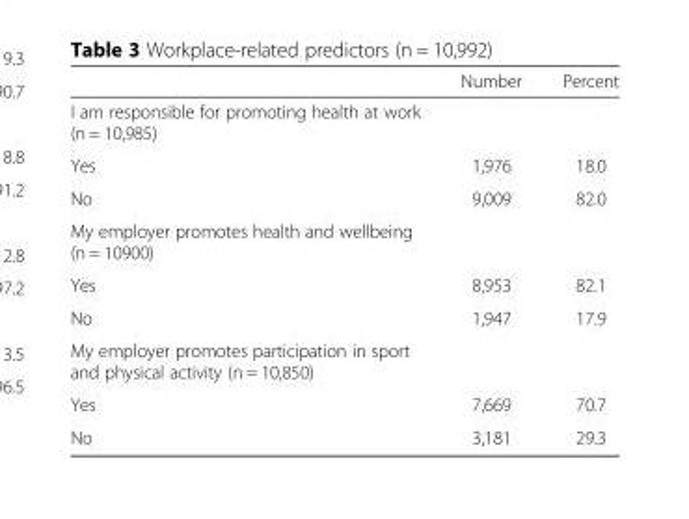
<table><thead><tr><td></td><td>Number</td><td>Percent</td></tr></thead><tbody><tr><td colspan="3">I am responsible for promoting health at work (n = 10,985)</td></tr><tr><td>Yes</td><td>1,976</td><td>18.0</td></tr><tr><td>No</td><td>9,009</td><td>82.0</td></tr><tr><td colspan="3">My employer promotes health and wellbeing (n = 10900)</td></tr><tr><td>Yes</td><td>8,953</td><td>82.1</td></tr><tr><td>No</td><td>1,947</td><td>17.9</td></tr><tr><td colspan="3">My employer promotes participation in sport and physical activity (n = 10,850)</td></tr><tr><td>Yes</td><td>7,669</td><td>70.7</td></tr><tr><td>No</td><td>3,181</td><td>29.3</td></tr></tbody></table>